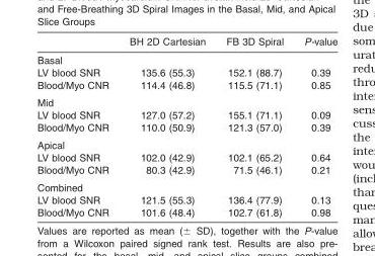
<table><thead><tr><td></td><td>BH 2D Cartesian</td><td>FB 3D Spiral</td><td>P-value</td></tr></thead><tbody><tr><td colspan="4">Basal</td></tr><tr><td>LV blood SNR</td><td>135.6 (55.3)</td><td>152.1 (88.7)</td><td>0.39</td></tr><tr><td>Blood/Myo CNR</td><td>114.4 (46.8)</td><td>115.5 (71.1)</td><td>0.85</td></tr><tr><td colspan="4">Mid</td></tr><tr><td>LV blood SNR</td><td>127.0 (57.2)</td><td>155.1 (71.1)</td><td>0.09</td></tr><tr><td>Blood/Myo CNR</td><td>110.0 (50.9)</td><td>121.3 (57.0)</td><td>0.39</td></tr><tr><td colspan="4">Apical</td></tr><tr><td>LV blood SNR</td><td>102.0 (42.9)</td><td>102.1 (65.2)</td><td>0.64</td></tr><tr><td>Blood/Myo CNR</td><td>80.3 (42.9)</td><td>71.5 (46.1)</td><td>0.21</td></tr><tr><td colspan="4">Combined</td></tr><tr><td>LV blood SNR</td><td>121.5 (55.3)</td><td>136.4 (77.9)</td><td>0.13</td></tr><tr><td>Blood/Myo CNR</td><td>101.6 (48.4)</td><td>102.7 (61.8)</td><td>0.98</td></tr></tbody></table>